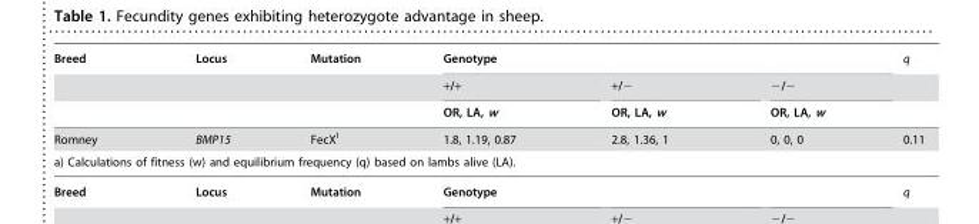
<table><thead><tr><td rowspan="3">Breed</td><td rowspan="3">Locus</td><td rowspan="3">Mutation</td><td colspan="3">Genotype</td><td rowspan="3">q</td></tr><tr><td rowspan="2">+/+ OR, LA, w</td><td rowspan="2">+/− OR, LA, w</td><td rowspan="2">−/− OR, LA, w</td></tr><tr></tr></thead><tbody><tr><td>Romney</td><td>BMP15</td><td>FecX<sup>I</sup></td><td>1.8, 1.19, 0.87</td><td>2.8, 1.36, 1</td><td>0, 0, 0</td><td>0.11</td></tr><tr><td colspan="7">a) Calculations of fitness (w) and equilibrium frequency (q) based on lambs alive (LA).</td></tr></tbody></table>